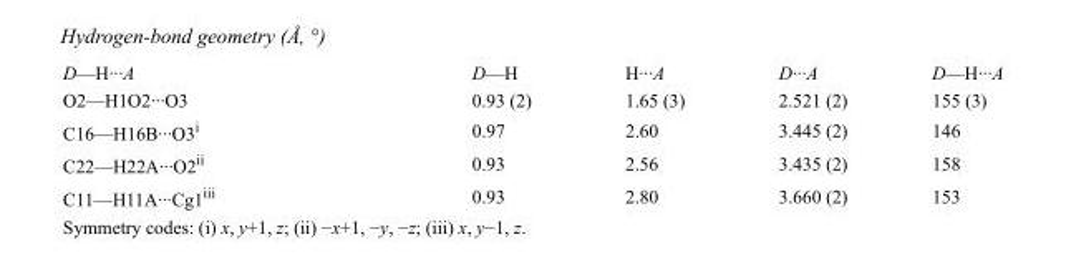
<table><tbody><tr><td>D—H···A</td><td>D—H</td><td>H···A</td><td>D···A</td><td>D—H···A</td></tr><tr><td>O2—H1O2···O3</td><td>0.93 (2)</td><td>1.65 (3)</td><td>2.521 (2)</td><td>155 (3)</td></tr><tr><td>C16—H16B···O3<sup>i</sup></td><td>0.97</td><td>2.60</td><td>3.445 (2)</td><td>146</td></tr><tr><td>C22—H22A···O2<sup>ii</sup></td><td>0.93</td><td>2.56</td><td>3.435 (2)</td><td>158</td></tr><tr><td>C11—H11A···Cg1<sup>iii</sup></td><td>0.93</td><td>2.80</td><td>3.660 (2)</td><td>153</td></tr></tbody></table>